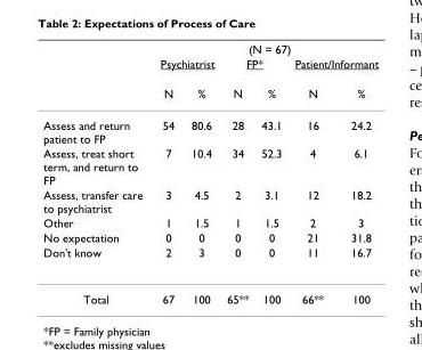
<table><thead><tr><td rowspan="3"></td><td colspan="6">(N = 67)</td></tr><tr><td colspan="2">Psychiatrist</td><td colspan="2">FP*</td><td colspan="2">Patient/Informant</td></tr><tr><td>N</td><td>%</td><td>N</td><td>%</td><td>N</td><td>%</td></tr></thead><tbody><tr><td>Assess and return patient to FP</td><td>54</td><td>80.6</td><td>28</td><td>43.1</td><td>16</td><td>24.2</td></tr><tr><td>Assess, treat short term, and return to FP</td><td>7</td><td>10.4</td><td>34</td><td>52.3</td><td>4</td><td>6.1</td></tr><tr><td>Assess, transfer care to psychiatrist</td><td>3</td><td>4.5</td><td>2</td><td>3.1</td><td>12</td><td>18.2</td></tr><tr><td>Other</td><td>1</td><td>1.5</td><td>1</td><td>1.5</td><td>2</td><td>3</td></tr><tr><td>No expectation</td><td>0</td><td>0</td><td>0</td><td>0</td><td>21</td><td>31.8</td></tr><tr><td>Don&#x27;t know</td><td>2</td><td>3</td><td>0</td><td>0</td><td>11</td><td>16.7</td></tr><tr><td>Total</td><td>67</td><td>100</td><td>65**</td><td>100</td><td>66**</td><td>100</td></tr></tbody></table>